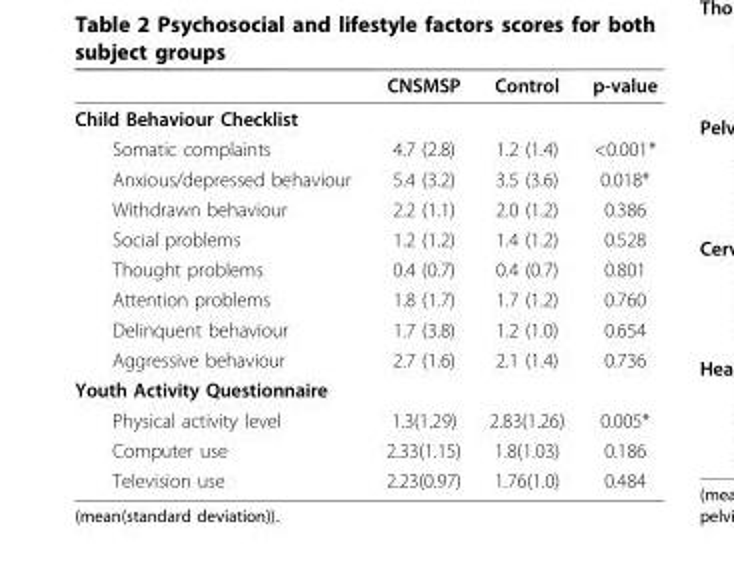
<table><thead><tr><td></td><td>CNSMSP</td><td>Control</td><td>p-value</td></tr></thead><tbody><tr><td colspan="4">Child Behaviour Checklist</td></tr><tr><td>Somatic complaints</td><td>4.7 (2.8)</td><td>1.2 (1.4)</td><td>&lt;0.001*</td></tr><tr><td>Anxious/depressed behaviour</td><td>5.4 (3.2)</td><td>3.5 (3.6)</td><td>0.018*</td></tr><tr><td>Withdrawn behaviour</td><td>2.2 (1.1)</td><td>2.0 (1.2)</td><td>0.386</td></tr><tr><td>Social problems</td><td>1.2 (1.2)</td><td>1.4 (1.2)</td><td>0.528</td></tr><tr><td>Thought problems</td><td>0.4 (0.7)</td><td>0.4 (0.7)</td><td>0.801</td></tr><tr><td>Attention problems</td><td>1.8 (1.7)</td><td>1.7 (1.2)</td><td>0.760</td></tr><tr><td>Delinquent behaviour</td><td>1.7 (3.8)</td><td>1.2 (1.0)</td><td>0.654</td></tr><tr><td>Aggressive behaviour</td><td>2.7 (1.6)</td><td>2.1 (1.4)</td><td>0.736</td></tr><tr><td colspan="4">Youth Activity Questionnaire</td></tr><tr><td>Physical activity level</td><td>1.3(1.29)</td><td>2.83(1.26)</td><td>0.005*</td></tr><tr><td>Computer use</td><td>2.33(1.15)</td><td>1.8(1.03)</td><td>0.186</td></tr><tr><td>Television use</td><td>2.23(0.97)</td><td>1.76(1.0)</td><td>0.484</td></tr></tbody></table>